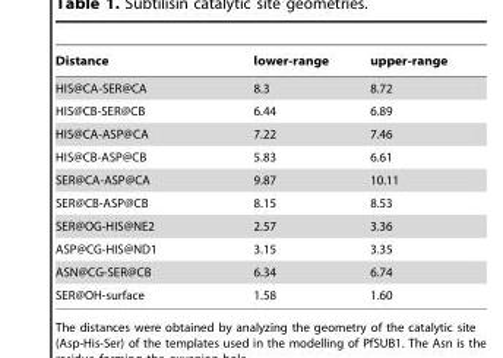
<table><thead><tr><td>Distance</td><td>lower-range</td><td>upper-range</td></tr></thead><tbody><tr><td>HIS@CA-SER@CA</td><td>8.3</td><td>8.72</td></tr><tr><td>HIS@CB-SER@CB</td><td>6.44</td><td>6.89</td></tr><tr><td>HIS@CA-ASP@CA</td><td>7.22</td><td>7.46</td></tr><tr><td>HIS@CB-ASP@CB</td><td>5.83</td><td>6.61</td></tr><tr><td>SER@CA-ASP@CA</td><td>9.87</td><td>10.11</td></tr><tr><td>SER@CB-ASP@CB</td><td>8.15</td><td>8.53</td></tr><tr><td>SER@OG-HIS@NE2</td><td>2.57</td><td>3.36</td></tr><tr><td>ASP@CG-HIS@ND1</td><td>3.15</td><td>3.35</td></tr><tr><td>ASN@CG-SER@CB</td><td>6.34</td><td>6.74</td></tr><tr><td>SER@OH-surface</td><td>1.58</td><td>1.60</td></tr></tbody></table>